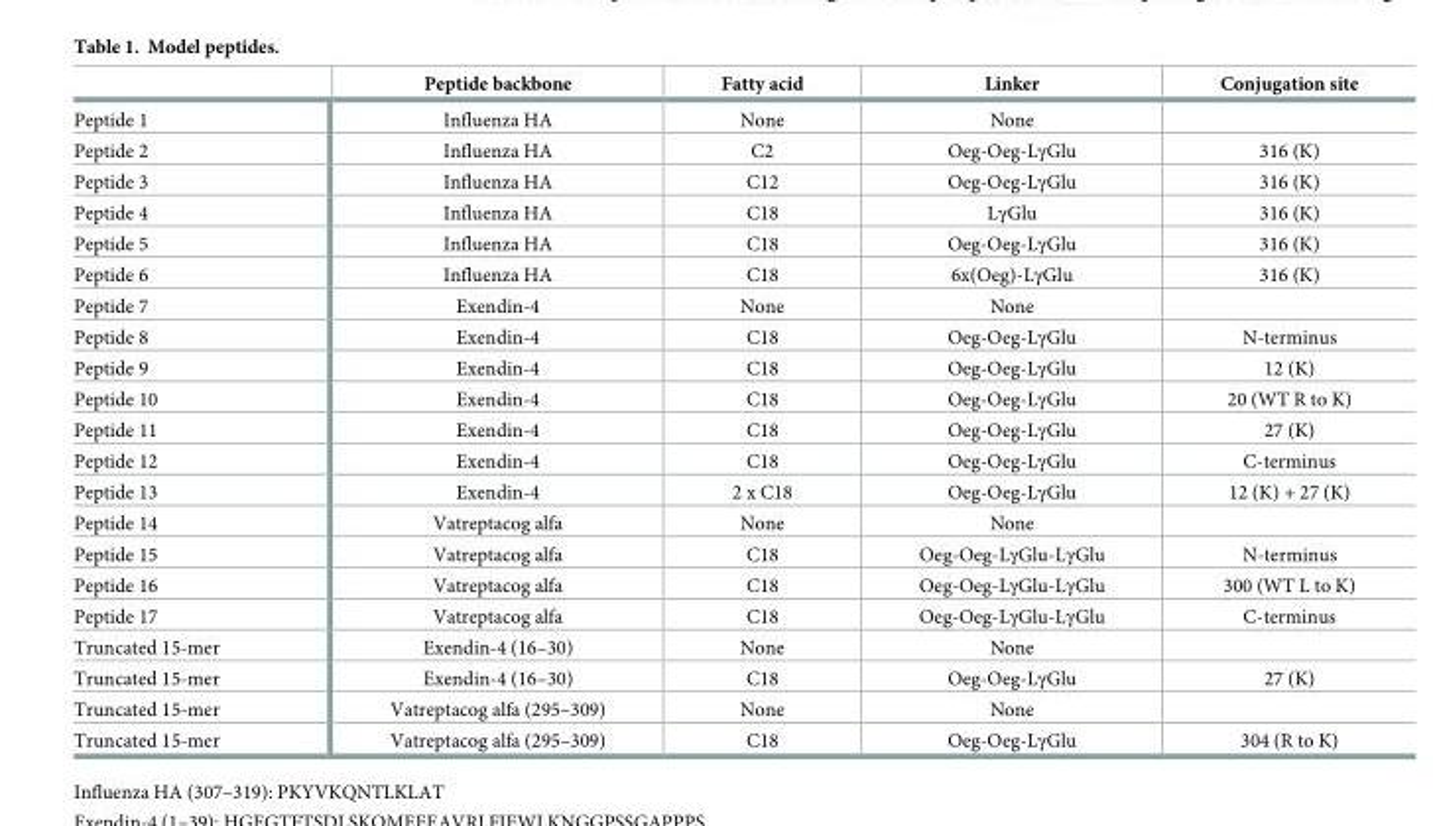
<table><thead><tr><td></td><td>Peptide backbone</td><td>Fatty acid</td><td>Linker</td><td>Conjugation site</td></tr></thead><tbody><tr><td>Peptide 1</td><td>Influenza HA</td><td>None</td><td>None</td><td></td></tr><tr><td>Peptide 2</td><td>Influenza HA</td><td>C2</td><td>Oeg-Oeg-LγGlu</td><td>316 (K)</td></tr><tr><td>Peptide 3</td><td>Influenza HA</td><td>C12</td><td>Oeg-Oeg-LγGlu</td><td>316 (K)</td></tr><tr><td>Peptide 4</td><td>Influenza HA</td><td>C18</td><td>LγGlu</td><td>316 (K)</td></tr><tr><td>Peptide 5</td><td>Influenza HA</td><td>C18</td><td>Oeg-Oeg-LγGlu</td><td>316 (K)</td></tr><tr><td>Peptide 6</td><td>Influenza HA</td><td>C18</td><td>6x(Oeg)-LγGlu</td><td>316 (K)</td></tr><tr><td>Peptide 7</td><td>Exendin-4</td><td>None</td><td>None</td><td></td></tr><tr><td>Peptide 8</td><td>Exendin-4</td><td>C18</td><td>Oeg-Oeg-LγGlu</td><td>N-terminus</td></tr><tr><td>Peptide 9</td><td>Exendin-4</td><td>C18</td><td>Oeg-Oeg-LγGlu</td><td>12 (K)</td></tr><tr><td>Peptide 10</td><td>Exendin-4</td><td>C18</td><td>Oeg-Oeg-LγGlu</td><td>20 (WT R to K)</td></tr><tr><td>Peptide 11</td><td>Exendin-4</td><td>C18</td><td>Oeg-Oeg-LγGlu</td><td>27 (K)</td></tr><tr><td>Peptide 12</td><td>Exendin-4</td><td>C18</td><td>Oeg-Oeg-LγGlu</td><td>C-terminus</td></tr><tr><td>Peptide 13</td><td>Exendin-4</td><td>2 x C18</td><td>Oeg-Oeg-LγGlu</td><td>12 (K) + 27 (K)</td></tr><tr><td>Peptide 14</td><td>Vatreptacog alfa</td><td>None</td><td>None</td><td></td></tr><tr><td>Peptide 15</td><td>Vatreptacog alfa</td><td>C18</td><td>Oeg-Oeg-LγGlu-LγGlu</td><td>N-terminus</td></tr><tr><td>Peptide 16</td><td>Vatreptacog alfa</td><td>C18</td><td>Oeg-Oeg-LγGlu-LγGlu</td><td>300 (WT L to K)</td></tr><tr><td>Peptide 17</td><td>Vatreptacog alfa</td><td>C18</td><td>Oeg-Oeg-LγGlu-LγGlu</td><td>C-terminus</td></tr><tr><td>Truncated 15-mer</td><td>Exendin-4 (16–30)</td><td>None</td><td>None</td><td></td></tr><tr><td>Truncated 15-mer</td><td>Exendin-4 (16–30)</td><td>C18</td><td>Oeg-Oeg-LγGlu</td><td>27 (K)</td></tr><tr><td>Truncated 15-mer</td><td>Vatreptacog alfa (295–309)</td><td>None</td><td>None</td><td></td></tr><tr><td>Truncated 15-mer</td><td>Vatreptacog alfa (295–309)</td><td>C18</td><td>Oeg-Oeg-LγGlu</td><td>304 (R to K)</td></tr></tbody></table>